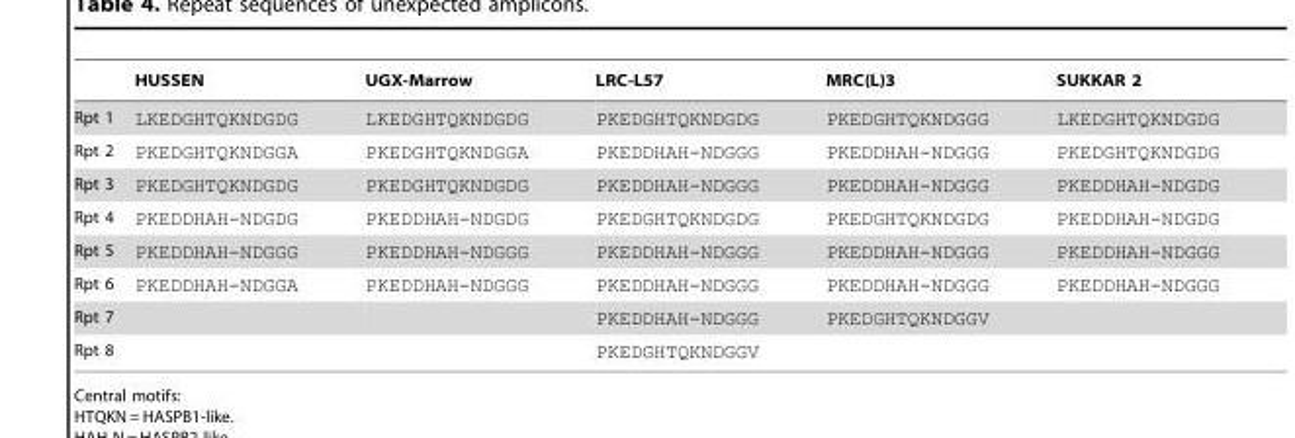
<table><thead><tr><td></td><td>HUSSEN</td><td>UGX-Marrow</td><td>LRC-L57</td><td>MRC(L)3</td><td>SUKKAR 2</td></tr></thead><tbody><tr><td>Rpt 1</td><td>LKEDGHTQKNDGDG</td><td>LKEDGHTQKNDGDG</td><td>PKEDGHTQKNDGDG</td><td>PKEDGHTQKNDGGG</td><td>LKEDGHTQKNDGDG</td></tr><tr><td>Rpt 2</td><td>PKEDGHTQKNDGGA</td><td>PKEDGHTQKNDGGA</td><td>PKEDDHAH-NDGGG</td><td>PKEDDHAH-NDGGG</td><td>PKEDGHTQKNDGDG</td></tr><tr><td>Rpt 3</td><td>PKEDGHTQKNDGDG</td><td>PKEDGHTQKNDGDG</td><td>PKEDDHAH-NDGGG</td><td>PKEDDHAH-NDGGG</td><td>PKEDDHAH-NDGDG</td></tr><tr><td>Rpt 4</td><td>PKEDDHAH-NDGDG</td><td>PKEDDHAH-NDGDG</td><td>PKEDGHTQKNDGDG</td><td>PKEDGHTQKNDGDG</td><td>PKEDDHAH-NDGDG</td></tr><tr><td>Rpt 5</td><td>PKEDDHAH-NDGGG</td><td>PKEDDHAH-NDGGG</td><td>PKEDDHAH-NDGGG</td><td>PKEDDHAH-NDGGG</td><td>PKEDDHAH-NDGGG</td></tr><tr><td>Rpt 6</td><td>PKEDDHAH-NDGGA</td><td>PKEDDHAH-NDGGG</td><td>PKEDDHAH-NDGGG</td><td>PKEDDHAH-NDGGG</td><td>PKEDDHAH-NDGGG</td></tr><tr><td>Rpt 7</td><td></td><td></td><td>PKEDDHAH-NDGGG</td><td>PKEDGHTQKNDGGV</td><td></td></tr><tr><td>Rpt 8</td><td></td><td></td><td>PKEDGHTQKNDGGV</td><td></td><td></td></tr></tbody></table>